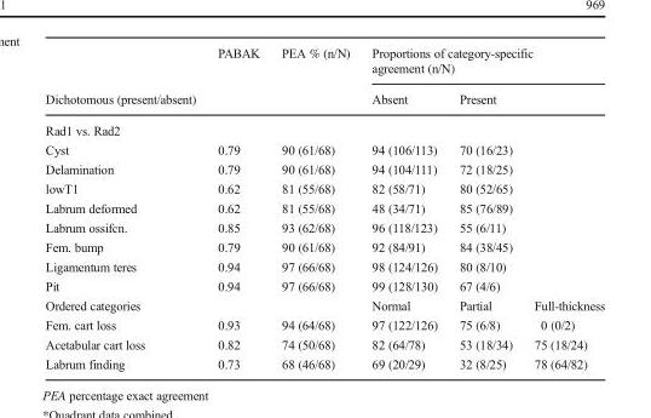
<table><thead><tr><td rowspan="2">Dichotomous (present/absent)</td><td rowspan="2">PABAK</td><td rowspan="2">PEA % (n/N)</td><td colspan="3">Proportions of category-specific agreement (n/N)</td></tr><tr><td>Absent</td><td>Present</td><td></td></tr></thead><tbody><tr><td colspan="6">Rad1 vs. Rad2</td></tr><tr><td>Cyst</td><td>0.79</td><td>90 (61/68)</td><td>94 (106/113)</td><td>70 (16/23)</td><td></td></tr><tr><td>Delamination</td><td>0.79</td><td>90 (61/68)</td><td>94 (104/111)</td><td>72 (18/25)</td><td></td></tr><tr><td>lowT1</td><td>0.62</td><td>81 (55/68)</td><td>82 (58/71)</td><td>80 (52/65)</td><td></td></tr><tr><td>Labrum deformed</td><td>0.62</td><td>81 (55/68)</td><td>48 (34/71)</td><td>85 (76/89)</td><td></td></tr><tr><td>Labrum ossifcn.</td><td>0.85</td><td>93 (62/68)</td><td>96 (118/123)</td><td>55 (6/11)</td><td></td></tr><tr><td>Fem. bump</td><td>0.79</td><td>90 (61/68)</td><td>92 (84/91)</td><td>84 (38/45)</td><td></td></tr><tr><td>Ligamentum teres</td><td>0.94</td><td>97 (66/68)</td><td>98 (124/126)</td><td>80 (8/10)</td><td></td></tr><tr><td>Pit</td><td>0.94</td><td>97 (66/68)</td><td>99 (128/130)</td><td>67 (4/6)</td><td></td></tr><tr><td>Ordered categories</td><td></td><td></td><td>Normal</td><td>Partial</td><td>Full-thickness</td></tr><tr><td>Fem. cart loss</td><td>0.93</td><td>94 (64/68)</td><td>97 (122/126)</td><td>75 (6/8)</td><td>0 (0/2)</td></tr><tr><td>Acetabular cart loss</td><td>0.82</td><td>74 (50/68)</td><td>82 (64/78)</td><td>53 (18/34)</td><td>75 (18/24)</td></tr><tr><td>Labrum finding</td><td>0.73</td><td>68 (46/68)</td><td>69 (20/29)</td><td>32 (8/25)</td><td>78 (64/82)</td></tr></tbody></table>